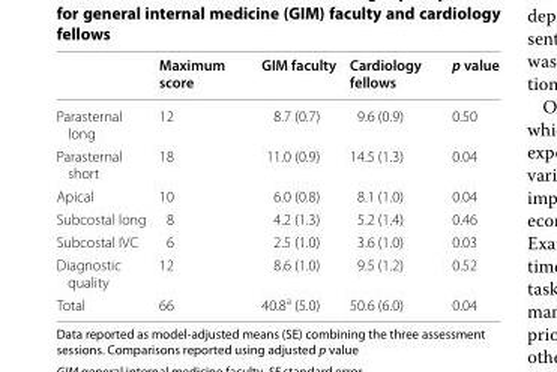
<table><thead><tr><td></td><td>Maximum score</td><td>GIM faculty</td><td>Cardiology fellows</td><td>p value</td></tr></thead><tbody><tr><td>Parasternal long</td><td>12</td><td>8.7 (0.7)</td><td>9.6 (0.9)</td><td>0.50</td></tr><tr><td>Parasternal short</td><td>18</td><td>11.0 (0.9)</td><td>14.5 (1.3)</td><td>0.04</td></tr><tr><td>Apical</td><td>10</td><td>6.0 (0.8)</td><td>8.1 (1.0)</td><td>0.04</td></tr><tr><td>Subcostal long</td><td>8</td><td>4.2 (1.3)</td><td>5.2 (1.4)</td><td>0.46</td></tr><tr><td>Subcostal IVC</td><td>6</td><td>2.5 (1.0)</td><td>3.6 (1.0)</td><td>0.03</td></tr><tr><td>Diagnostic quality</td><td>12</td><td>8.6 (1.0)</td><td>9.5 (1.2)</td><td>0.52</td></tr><tr><td>Total</td><td>66</td><td>40.8<sup>a</sup> (5.0)</td><td>50.6 (6.0)</td><td>0.04</td></tr></tbody></table>